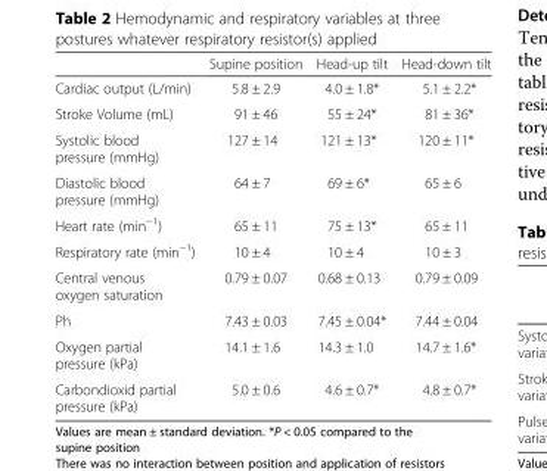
<table><thead><tr><td></td><td>Supine position</td><td>Head-up tilt</td><td>Head-down tilt</td></tr></thead><tbody><tr><td>Cardiac output (L/min)</td><td>5.8 ± 2.9</td><td>4.0 ± 1.8*</td><td>5.1 ± 2.2*</td></tr><tr><td>Stroke Volume (mL)</td><td>91 ± 46</td><td>55 ± 24*</td><td>81 ± 36*</td></tr><tr><td>Systolic blood pressure (mmHg)</td><td>127 ± 14</td><td>121 ± 13*</td><td>120 ± 11*</td></tr><tr><td>Diastolic blood pressure (mmHg)</td><td>64 ± 7</td><td>69 ± 6*</td><td>65 ± 6</td></tr><tr><td>Heart rate (min<sup>−1</sup>)</td><td>65 ± 11</td><td>75 ± 13*</td><td>65 ± 11</td></tr><tr><td>Respiratory rate (min<sup>−1</sup>)</td><td>10 ± 4</td><td>10 ± 4</td><td>10 ± 3</td></tr><tr><td>Central venous oxygen saturation</td><td>0.79 ± 0.07</td><td>0.68 ± 0.13</td><td>0.79 ± 0.09</td></tr><tr><td>Ph</td><td>7.43 ± 0.03</td><td>7.45 ± 0.04*</td><td>7.44 ± 0.04</td></tr><tr><td>Oxygen partial pressure (kPa)</td><td>14.1 ± 1.6</td><td>14.3 ± 1.0</td><td>14.7 ± 1.6*</td></tr><tr><td>Carbondioxid partial pressure (kPa)</td><td>5.0 ± 0.6</td><td>4.6 ± 0.7*</td><td>4.8 ± 0.7*</td></tr></tbody></table>